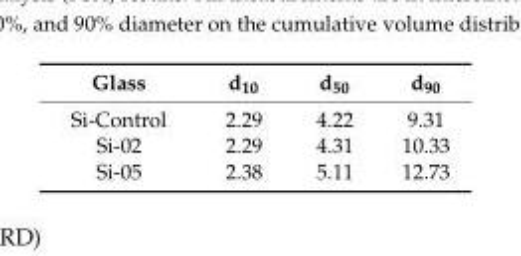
<table><thead><tr><td>Glass</td><td>d<sub>10</sub></td><td>d<sub>50</sub></td><td>d<sub>90</sub></td></tr></thead><tbody><tr><td>Si-Control</td><td>2.29</td><td>4.22</td><td>9.31</td></tr><tr><td>Si-02</td><td>2.29</td><td>4.31</td><td>10.33</td></tr><tr><td>Si-05</td><td>2.38</td><td>5.11</td><td>12.73</td></tr></tbody></table>